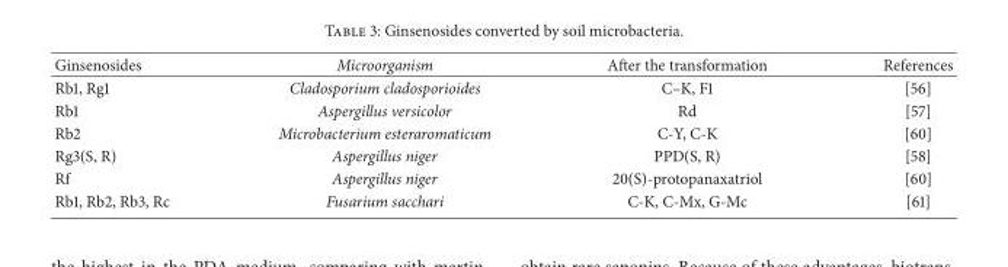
<table><thead><tr><td>Ginsenosides</td><td>Microorganism</td><td>After the transformation</td><td>References</td></tr></thead><tbody><tr><td>Rb1, Rg1</td><td>Cladosporium cladosporioides</td><td>C–K, F1</td><td>[56]</td></tr><tr><td>Rb1</td><td>Aspergillus versicolor</td><td>Rd</td><td>[57]</td></tr><tr><td>Rb2</td><td>Microbacterium esteraromaticum</td><td>C-Y, C-K</td><td>[60]</td></tr><tr><td>Rg3(S, R)</td><td>Aspergillus niger</td><td>PPD(S, R)</td><td>[58]</td></tr><tr><td>Rf</td><td>Aspergillus niger</td><td>20(S)-protopanaxatriol</td><td>[60]</td></tr><tr><td>Rb1, Rb2, Rb3, Rc</td><td>Fusarium sacchari</td><td>C-K, C-Mx, G-Mc</td><td>[61]</td></tr></tbody></table>